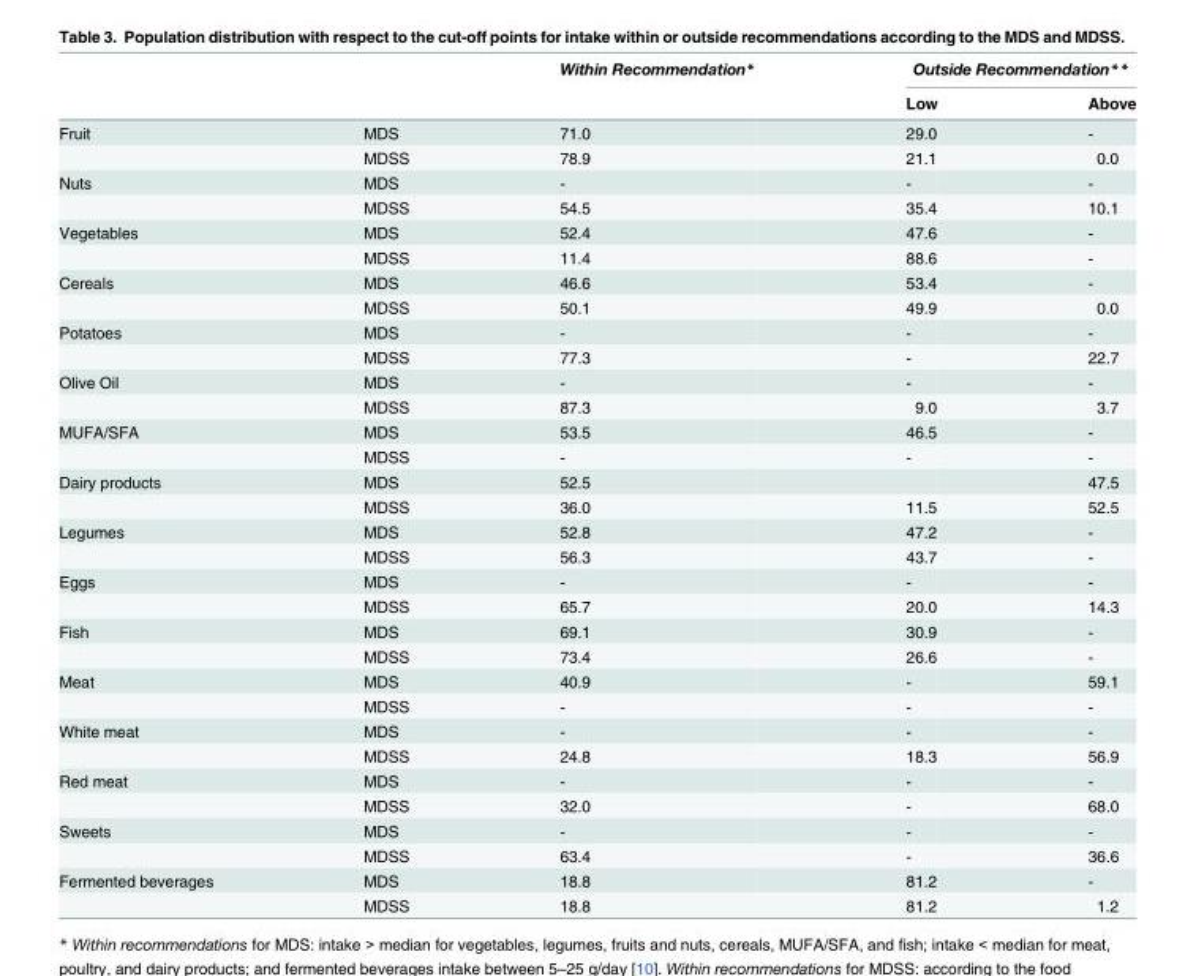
<table><thead><tr><td rowspan="2"></td><td rowspan="2"></td><td rowspan="2">Within Recommendation*</td><td colspan="2">Outside Recommendation**</td></tr><tr><td>Low</td><td>Above</td></tr></thead><tbody><tr><td rowspan="2">Fruit</td><td>MDS</td><td>71.0</td><td>29.0</td><td>-</td></tr><tr><td>MDSS</td><td>78.9</td><td>21.1</td><td>0.0</td></tr><tr><td rowspan="2">Nuts</td><td>MDS</td><td>-</td><td>-</td><td>-</td></tr><tr><td>MDSS</td><td>54.5</td><td>35.4</td><td>10.1</td></tr><tr><td rowspan="2">Vegetables</td><td>MDS</td><td>52.4</td><td>47.6</td><td>-</td></tr><tr><td>MDSS</td><td>11.4</td><td>88.6</td><td>-</td></tr><tr><td rowspan="2">Cereals</td><td>MDS</td><td>46.6</td><td>53.4</td><td>-</td></tr><tr><td>MDSS</td><td>50.1</td><td>49.9</td><td>0.0</td></tr><tr><td rowspan="2">Potatoes</td><td>MDS</td><td>-</td><td>-</td><td>-</td></tr><tr><td>MDSS</td><td>77.3</td><td>-</td><td>22.7</td></tr><tr><td rowspan="2">Olive Oil</td><td>MDS</td><td>-</td><td>-</td><td>-</td></tr><tr><td>MDSS</td><td>87.3</td><td>9.0</td><td>3.7</td></tr><tr><td rowspan="2">MUFA/SFA</td><td>MDS</td><td>53.5</td><td>46.5</td><td>-</td></tr><tr><td>MDSS</td><td>-</td><td>-</td><td>-</td></tr><tr><td rowspan="2">Dairy products</td><td>MDS</td><td>52.5</td><td></td><td>47.5</td></tr><tr><td>MDSS</td><td>36.0</td><td>11.5</td><td>52.5</td></tr><tr><td rowspan="2">Legumes</td><td>MDS</td><td>52.8</td><td>47.2</td><td>-</td></tr><tr><td>MDSS</td><td>56.3</td><td>43.7</td><td>-</td></tr><tr><td rowspan="2">Eggs</td><td>MDS</td><td>-</td><td>-</td><td>-</td></tr><tr><td>MDSS</td><td>65.7</td><td>20.0</td><td>14.3</td></tr><tr><td rowspan="2">Fish</td><td>MDS</td><td>69.1</td><td>30.9</td><td>-</td></tr><tr><td>MDSS</td><td>73.4</td><td>26.6</td><td>-</td></tr><tr><td rowspan="2">Meat</td><td>MDS</td><td>40.9</td><td>-</td><td>59.1</td></tr><tr><td>MDSS</td><td>-</td><td>-</td><td>-</td></tr><tr><td rowspan="2">White meat</td><td>MDS</td><td>-</td><td>-</td><td>-</td></tr><tr><td>MDSS</td><td>24.8</td><td>18.3</td><td>56.9</td></tr><tr><td rowspan="2">Red meat</td><td>MDS</td><td>-</td><td>-</td><td>-</td></tr><tr><td>MDSS</td><td>32.0</td><td>-</td><td>68.0</td></tr><tr><td rowspan="2">Sweets</td><td>MDS</td><td>-</td><td>-</td><td>-</td></tr><tr><td>MDSS</td><td>63.4</td><td>-</td><td>36.6</td></tr><tr><td rowspan="2">Fermented beverages</td><td>MDS</td><td>18.8</td><td>81.2</td><td>-</td></tr><tr><td>MDSS</td><td>18.8</td><td>81.2</td><td>1.2</td></tr></tbody></table>